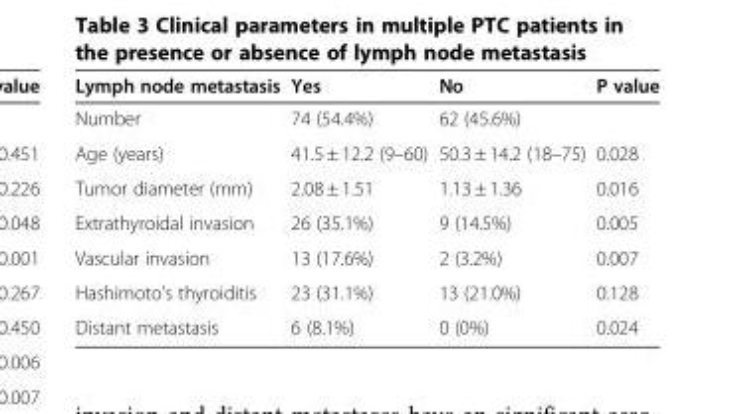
<table><thead><tr><td>Lymph node metastasis</td><td>Yes</td><td>No</td><td>P value</td></tr></thead><tbody><tr><td>Number</td><td>74 (54.4%)</td><td>62 (45.6%)</td><td></td></tr><tr><td>Age (years)</td><td>41.5 ± 12.2 (9–60)</td><td>50.3 ± 14.2 (18–75)</td><td>0.028</td></tr><tr><td>Tumor diameter (mm)</td><td>2.08 ± 1.51</td><td>1.13 ± 1.36</td><td>0.016</td></tr><tr><td>Extrathyroidal invasion</td><td>26 (35.1%)</td><td>9 (14.5%)</td><td>0.005</td></tr><tr><td>Vascular invasion</td><td>13 (17.6%)</td><td>2 (3.2%)</td><td>0.007</td></tr><tr><td>Hashimoto’s thyroiditis</td><td>23 (31.1%)</td><td>13 (21.0%)</td><td>0.128</td></tr><tr><td>Distant metastasis</td><td>6 (8.1%)</td><td>0 (0%)</td><td>0.024</td></tr></tbody></table>